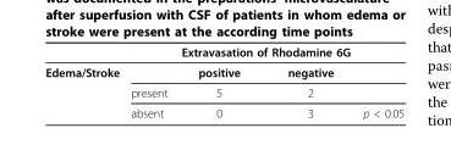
<table><thead><tr><td rowspan="2">Edema/Stroke</td><td rowspan="2"></td><td colspan="2">Extravasation of Rhodamine 6G</td><td rowspan="2"></td></tr><tr><td>positive</td><td>negative</td></tr></thead><tbody><tr><td></td><td>present</td><td>5</td><td>2</td><td></td></tr><tr><td></td><td>absent</td><td>0</td><td>3</td><td>p &lt; 0.05</td></tr></tbody></table>